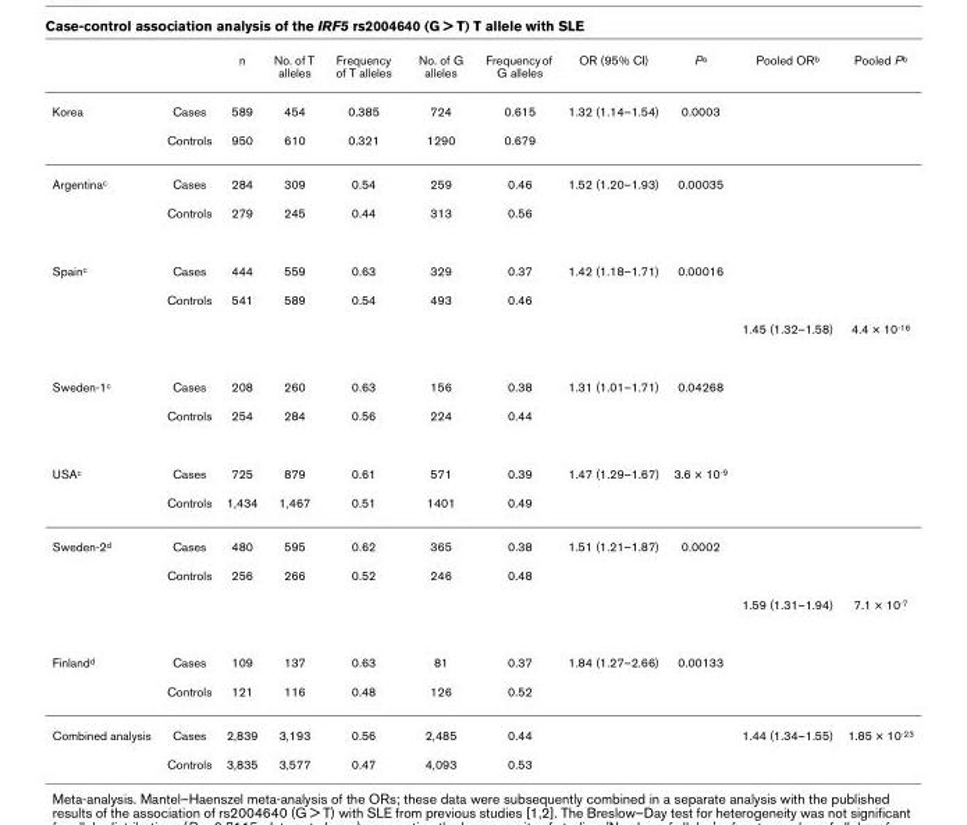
<table><thead><tr><td></td><td></td><td>n</td><td>No. of T alleles</td><td>Frequency of T alleles</td><td>No. of G alleles</td><td>Frequency of G alleles</td><td>OR (95% CI)</td><td>P<sup>a</sup></td><td>Pooled OR<sup>b</sup></td><td>Pooled P<sup>b</sup></td></tr></thead><tbody><tr><td rowspan="2">Korea</td><td>Cases</td><td>589</td><td>454</td><td>0.385</td><td>724</td><td>0.615</td><td>1.32 (1.14–1.54)</td><td>0.0003</td><td></td><td></td></tr><tr><td>Controls</td><td>950</td><td>610</td><td>0.321</td><td>1290</td><td>0.679</td><td></td><td></td><td></td><td></td></tr><tr><td rowspan="2">Argentina<sup>c</sup></td><td>Cases</td><td>284</td><td>309</td><td>0.54</td><td>259</td><td>0.46</td><td>1.52 (1.20–1.93)</td><td>0.00035</td><td></td><td></td></tr><tr><td>Controls</td><td>279</td><td>245</td><td>0.44</td><td>313</td><td>0.56</td><td></td><td></td><td></td><td></td></tr><tr><td rowspan="3">Spain<sup>c</sup></td><td>Cases</td><td>444</td><td>559</td><td>0.63</td><td>329</td><td>0.37</td><td>1.42 (1.18–1.71)</td><td>0.00016</td><td></td><td></td></tr><tr><td>Controls</td><td>541</td><td>589</td><td>0.54</td><td>493</td><td>0.46</td><td></td><td></td><td></td><td></td></tr><tr><td></td><td></td><td></td><td></td><td></td><td></td><td></td><td></td><td>1.45 (1.32–1.58)</td><td>4.4 × 10<sup>-16</sup></td></tr><tr><td rowspan="2">Sweden-1<sup>c</sup></td><td>Cases</td><td>208</td><td>260</td><td>0.63</td><td>156</td><td>0.38</td><td>1.31 (1.01–1.71)</td><td>0.04268</td><td></td><td></td></tr><tr><td>Controls</td><td>254</td><td>284</td><td>0.56</td><td>224</td><td>0.44</td><td></td><td></td><td></td><td></td></tr><tr><td rowspan="2">USA<sup>c</sup></td><td>Cases</td><td>725</td><td>879</td><td>0.61</td><td>571</td><td>0.39</td><td>1.47 (1.29–1.67)</td><td>3.6 × 10<sup>-9</sup></td><td></td><td></td></tr><tr><td>Controls</td><td>1,434</td><td>1,467</td><td>0.51</td><td>1401</td><td>0.49</td><td></td><td></td><td></td><td></td></tr><tr><td rowspan="3">Sweden-2<sup>d</sup></td><td>Cases</td><td>480</td><td>595</td><td>0.62</td><td>365</td><td>0.38</td><td>1.51 (1.21–1.87)</td><td>0.0002</td><td></td><td></td></tr><tr><td>Controls</td><td>256</td><td>266</td><td>0.52</td><td>246</td><td>0.48</td><td></td><td></td><td></td><td></td></tr><tr><td></td><td></td><td></td><td></td><td></td><td></td><td></td><td></td><td>1.59 (1.31–1.94)</td><td>7.1 × 10<sup>-7</sup></td></tr><tr><td rowspan="2">Finland<sup>d</sup></td><td>Cases</td><td>109</td><td>137</td><td>0.63</td><td>81</td><td>0.37</td><td>1.84 (1.27–2.66)</td><td>0.00133</td><td></td><td></td></tr><tr><td>Controls</td><td>121</td><td>116</td><td>0.48</td><td>126</td><td>0.52</td><td></td><td></td><td></td><td></td></tr><tr><td rowspan="2">Combined analysis</td><td>Cases</td><td>2,839</td><td>3,193</td><td>0.56</td><td>2,485</td><td>0.44</td><td></td><td></td><td>1.44 (1.34–1.55)</td><td>1.85 × 10<sup>-23</sup></td></tr><tr><td>Controls</td><td>3,835</td><td>3,577</td><td>0.47</td><td>4,093</td><td>0.53</td><td></td><td></td><td></td><td></td></tr></tbody></table>